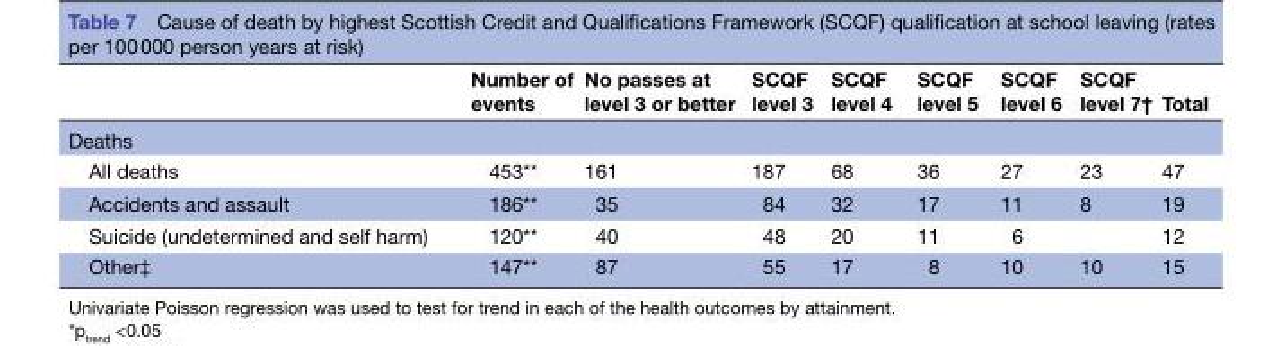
<table><thead><tr><td></td><td>Number of events</td><td>No passes at level 3 or better</td><td>SCQF level 3</td><td>SCQF level 4</td><td>SCQF level 5</td><td>SCQF level 6</td><td>SCQF level 7†</td><td>Total</td></tr></thead><tbody><tr><td colspan="9">Deaths</td></tr><tr><td>All deaths</td><td>453**</td><td>161</td><td>187</td><td>68</td><td>36</td><td>27</td><td>23</td><td>47</td></tr><tr><td>Accidents and assault</td><td>186**</td><td>35</td><td>84</td><td>32</td><td>17</td><td>11</td><td>8</td><td>19</td></tr><tr><td>Suicide (undetermined and self harm)</td><td>120**</td><td>40</td><td>48</td><td>20</td><td>11</td><td colspan="2">6</td><td>12</td></tr><tr><td>Other‡</td><td>147**</td><td>87</td><td>55</td><td>17</td><td>8</td><td>10</td><td>10</td><td>15</td></tr></tbody></table>